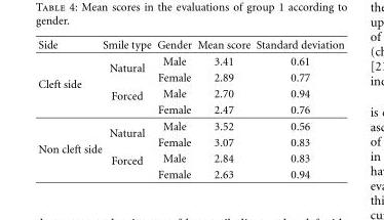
<table><thead><tr><td>Side</td><td>Smile type</td><td>Gender</td><td>Mean score</td><td>Standard deviation</td></tr></thead><tbody><tr><td rowspan="4">Cleft side</td><td rowspan="2">Natural</td><td>Male</td><td>3.41</td><td>0.61</td></tr><tr><td>Female</td><td>2.89</td><td>0.77</td></tr><tr><td rowspan="2">Forced</td><td>Male</td><td>2.70</td><td>0.94</td></tr><tr><td>Female</td><td>2.47</td><td>0.76</td></tr><tr><td rowspan="4">Non cleft side</td><td rowspan="2">Natural</td><td>Male</td><td>3.52</td><td>0.56</td></tr><tr><td>Female</td><td>3.07</td><td>0.83</td></tr><tr><td rowspan="2">Forced</td><td>Male</td><td>2.84</td><td>0.83</td></tr><tr><td>Female</td><td>2.63</td><td>0.94</td></tr></tbody></table>